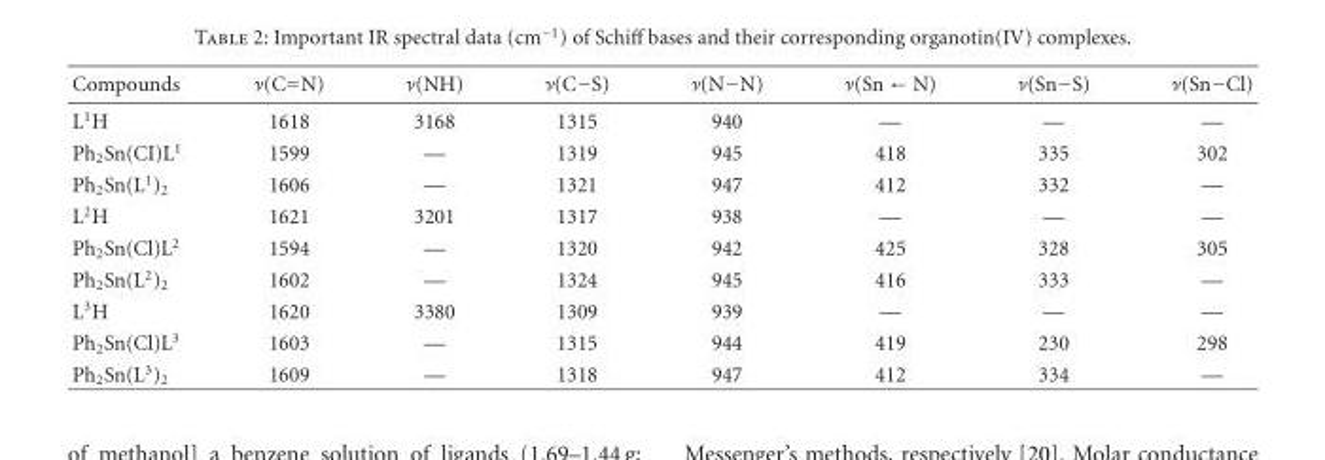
<table><tbody><tr><td>Compounds</td><td>ν(C=N)</td><td>ν(NH)</td><td>ν(C−S)</td><td>ν(N−N)</td><td>ν(Sn ← N)</td><td>ν(Sn−S)</td><td>ν(Sn−Cl)</td></tr><tr><td>L<sup>1</sup>H</td><td>1618</td><td>3168</td><td>1315</td><td>940</td><td>—</td><td>—</td><td>—</td></tr><tr><td>Ph<sub>2</sub>Sn(CI)L<sup>1</sup></td><td>1599</td><td>—</td><td>1319</td><td>945</td><td>418</td><td>335</td><td>302</td></tr><tr><td>Ph<sub>2</sub>Sn(L<sup>1</sup>)<sub>2</sub></td><td>1606</td><td>—</td><td>1321</td><td>947</td><td>412</td><td>332</td><td>—</td></tr><tr><td>L<sup>2</sup>H</td><td>1621</td><td>3201</td><td>1317</td><td>938</td><td>—</td><td>—</td><td>—</td></tr><tr><td>Ph<sub>2</sub>Sn(Cl)L<sup>2</sup></td><td>1594</td><td>—</td><td>1320</td><td>942</td><td>425</td><td>328</td><td>305</td></tr><tr><td>Ph<sub>2</sub>Sn(L<sup>2</sup>)<sub>2</sub></td><td>1602</td><td>—</td><td>1324</td><td>945</td><td>416</td><td>333</td><td>—</td></tr><tr><td>L<sup>3</sup>H</td><td>1620</td><td>3380</td><td>1309</td><td>939</td><td>—</td><td>—</td><td>—</td></tr><tr><td>Ph<sub>2</sub>Sn(Cl)L<sup>3</sup></td><td>1603</td><td>—</td><td>1315</td><td>944</td><td>419</td><td>230</td><td>298</td></tr><tr><td>Ph<sub>2</sub>Sn(L<sup>3</sup>)<sub>2</sub></td><td>1609</td><td>—</td><td>1318</td><td>947</td><td>412</td><td>334</td><td>—</td></tr></tbody></table>